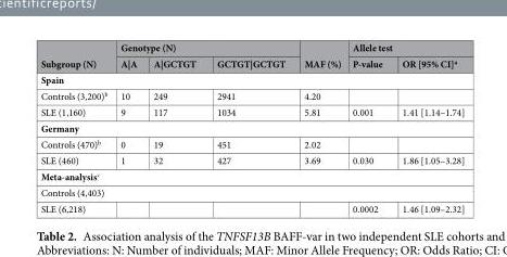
<table><thead><tr><td rowspan="2">Subgroup (N)</td><td colspan="3">Genotype (N)</td><td rowspan="2">MAF (%)</td><td colspan="2">Allele test</td></tr><tr><td>A|A</td><td>A|GCTGT</td><td>GCTGT|GCTGT</td><td>P-value</td><td>OR [95% CI]<sup>a</sup></td></tr></thead><tbody><tr><td colspan="7">Spain</td></tr><tr><td>Controls (3,200)<sup>b</sup></td><td>10</td><td>249</td><td>2941</td><td>4.20</td><td></td><td></td></tr><tr><td>SLE (1,160)</td><td>9</td><td>117</td><td>1034</td><td>5.81</td><td>0.001</td><td>1.41 [1.14–1.74]</td></tr><tr><td colspan="7">Germany</td></tr><tr><td>Controls (470)<sup>b</sup></td><td>0</td><td>19</td><td>451</td><td>2.02</td><td></td><td></td></tr><tr><td>SLE (460)</td><td>1</td><td>32</td><td>427</td><td>3.69</td><td>0.030</td><td>1.86 [1.05–3.28]</td></tr><tr><td colspan="7">Meta-analysis<sup>c</sup></td></tr><tr><td colspan="7">Controls (4,403)</td></tr><tr><td>SLE (6,218)</td><td></td><td></td><td></td><td></td><td>0.0002</td><td>1.46 [1.09–2.32]</td></tr></tbody></table>